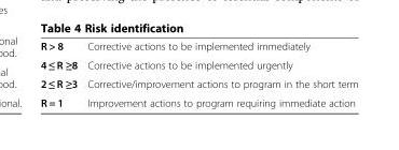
<table><tbody><tr><td>R &gt; 8</td><td>Corrective actions to be implemented immediately</td></tr><tr><td>4 ≤ R ≥8</td><td>Corrective actions to be implemented urgently</td></tr><tr><td>2 ≤ R ≥3</td><td>Corrective/improvement actions to program in the short term</td></tr><tr><td>R = 1</td><td>Improvement actions to program requiring immediate action</td></tr></tbody></table>